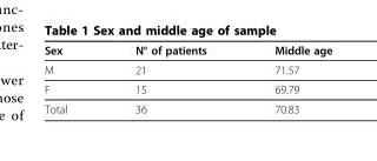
<table><thead><tr><td>Sex</td><td>N° of patients</td><td>Middle age</td></tr></thead><tbody><tr><td>M</td><td>21</td><td>71.57</td></tr><tr><td>F</td><td>15</td><td>69.79</td></tr><tr><td>Total</td><td>36</td><td>70.83</td></tr></tbody></table>